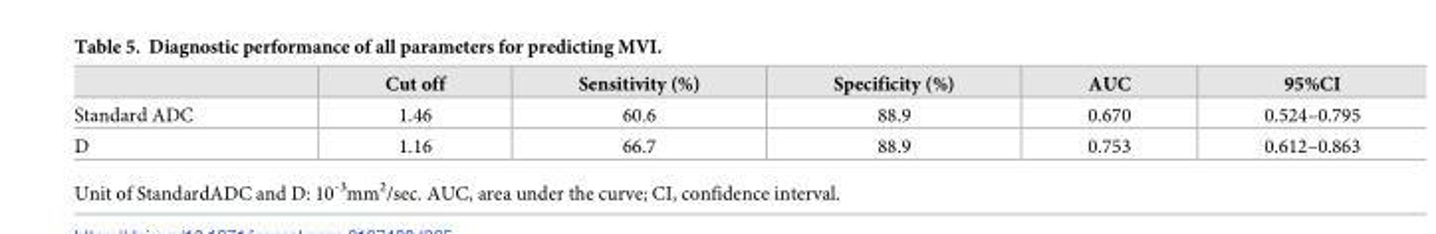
<table><thead><tr><td></td><td>Cut off</td><td>Sensitivity (%)</td><td>Specificity (%)</td><td>AUC</td><td>95%CI</td></tr></thead><tbody><tr><td>Standard ADC</td><td>1.46</td><td>60.6</td><td>88.9</td><td>0.670</td><td>0.524–0.795</td></tr><tr><td>D</td><td>1.16</td><td>66.7</td><td>88.9</td><td>0.753</td><td>0.612–0.863</td></tr></tbody></table>